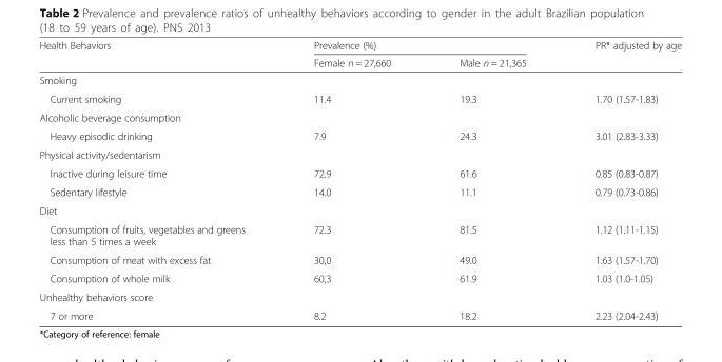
<table><thead><tr><td rowspan="2">Health Behaviors</td><td colspan="2">Prevalence (%)</td><td rowspan="2">PR* adjusted by age</td></tr><tr><td>Female n = 27,660</td><td>Male n = 21,365</td></tr></thead><tbody><tr><td colspan="4">Smoking</td></tr><tr><td>Current smoking</td><td>11.4</td><td>19.3</td><td>1.70 (1.57-1.83)</td></tr><tr><td colspan="4">Alcoholic beverage consumption</td></tr><tr><td>Heavy episodic drinking</td><td>7.9</td><td>24.3</td><td>3.01 (2.83-3.33)</td></tr><tr><td colspan="4">Physical activity/sedentarism</td></tr><tr><td>Inactive during leisure time</td><td>72.9</td><td>61.6</td><td>0.85 (0.83-0.87)</td></tr><tr><td>Sedentary lifestyle</td><td>14.0</td><td>11.1</td><td>0.79 (0.73-0.86)</td></tr><tr><td colspan="4">Diet</td></tr><tr><td>Consumption of fruits, vegetables and greens less than 5 times a week</td><td>72.3</td><td>81.5</td><td>1.12 (1.11-1.15)</td></tr><tr><td>Consumption of meat with excess fat</td><td>30,0</td><td>49.0</td><td>1.63 (1.57-1.70)</td></tr><tr><td>Consumption of whole milk</td><td>60,3</td><td>61.9</td><td>1.03 (1.0-1.05)</td></tr><tr><td colspan="4">Unhealthy behaviors score</td></tr><tr><td>7 or more</td><td>8.2</td><td>18.2</td><td>2.23 (2.04-2.43)</td></tr></tbody></table>